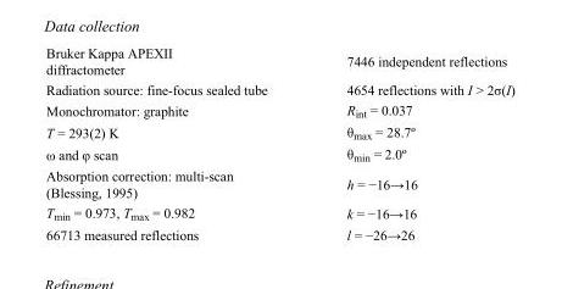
<table><tbody><tr><td>Bruker Kappa APEXII diffractometer</td><td>7446 independent reflections</td></tr><tr><td>Radiation source: fine-focus sealed tube</td><td>4654 reflections with I &gt; 2σ(I)</td></tr><tr><td>Monochromator: graphite</td><td>R<sub>int</sub> = 0.037</td></tr><tr><td>T = 293(2) K</td><td>θ<sub>max</sub> = 28.7º</td></tr><tr><td>ω and φ scan</td><td>θ<sub>min</sub> = 2.0º</td></tr><tr><td>Absorption correction: multi-scan (Blessing, 1995)</td><td>h = −16→16</td></tr><tr><td>T<sub>min</sub> = 0.973, T<sub>max</sub> = 0.982</td><td>k = −16→16</td></tr><tr><td>66713 measured reflections</td><td>l = −26→26</td></tr></tbody></table>